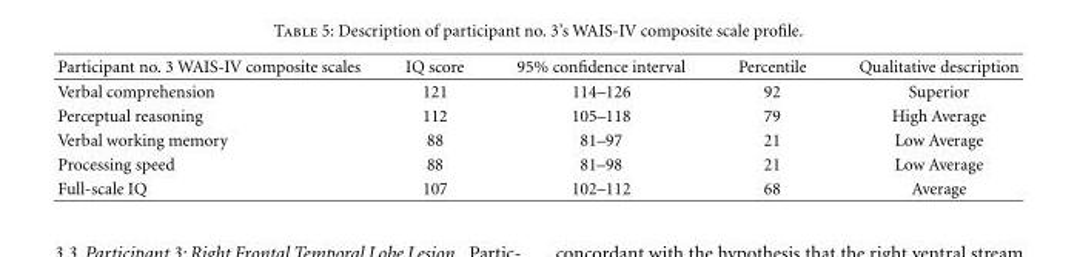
<table><thead><tr><td>Participant no. 3 WAIS-IV composite scales</td><td>IQ score</td><td>95% confidence interval</td><td>Percentile</td><td>Qualitative description</td></tr></thead><tbody><tr><td>Verbal comprehension</td><td>121</td><td>114–126</td><td>92</td><td>Superior</td></tr><tr><td>Perceptual reasoning</td><td>112</td><td>105–118</td><td>79</td><td>High Average</td></tr><tr><td>Verbal working memory</td><td>88</td><td>81–97</td><td>21</td><td>Low Average</td></tr><tr><td>Processing speed</td><td>88</td><td>81–98</td><td>21</td><td>Low Average</td></tr><tr><td>Full-scale IQ</td><td>107</td><td>102–112</td><td>68</td><td>Average</td></tr></tbody></table>